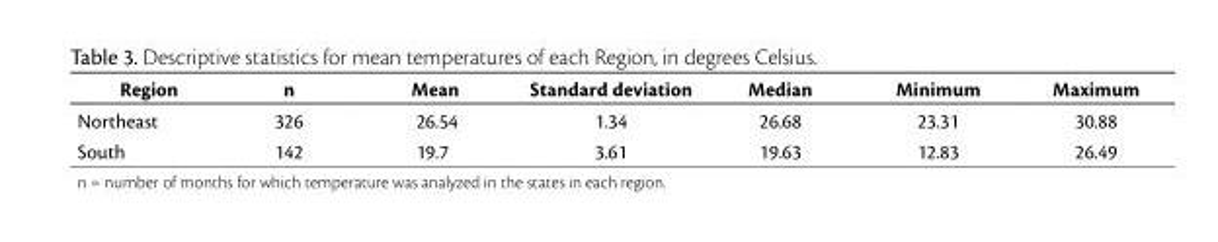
<table><thead><tr><td>Region</td><td>n</td><td>Mean</td><td>Standard deviation</td><td>Median</td><td>Minimum</td><td>Maximum</td></tr></thead><tbody><tr><td>Northeast</td><td>326</td><td>26.54</td><td>1.34</td><td>26.68</td><td>23.31</td><td>30.88</td></tr><tr><td>South</td><td>142</td><td>19.7</td><td>3.61</td><td>19.63</td><td>12.83</td><td>26.49</td></tr></tbody></table>